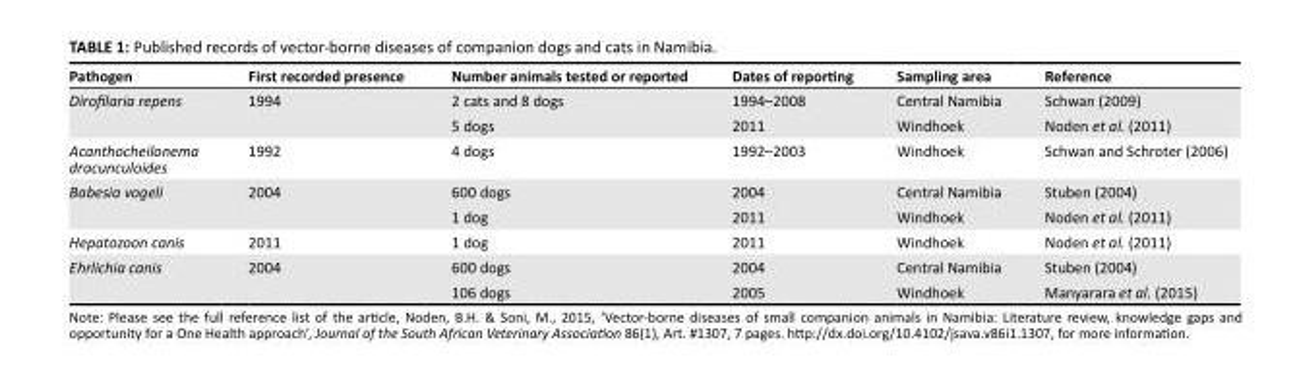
<table><thead><tr><td>Pathogen</td><td>First recorded presence</td><td>Number animals tested or reported</td><td>Dates of reporting</td><td>Sampling area</td><td>Reference</td></tr></thead><tbody><tr><td rowspan="2">Dirofilaria repens</td><td>1994</td><td>2 cats and 8 dogs</td><td>1994–2008</td><td>Central Namibia</td><td>Schwan (2009)</td></tr><tr><td></td><td>5 dogs</td><td>2011</td><td>Windhoek</td><td>Noden et al. (2011)</td></tr><tr><td>Acanthocheilonema dracunculoides</td><td>1992</td><td>4 dogs</td><td>1992–2003</td><td>Windhoek</td><td>Schwan and Schroter (2006)</td></tr><tr><td rowspan="2">Babesia vogeli</td><td>2004</td><td>600 dogs</td><td>2004</td><td>Central Namibia</td><td>Stuben (2004)</td></tr><tr><td></td><td>1 dog</td><td>2011</td><td>Windhoek</td><td>Noden et al. (2011)</td></tr><tr><td>Hepatozoon canis</td><td>2011</td><td>1 dog</td><td>2011</td><td>Windhoek</td><td>Noden et al. (2011)</td></tr><tr><td rowspan="2">Ehrlichia canis</td><td>2004</td><td>600 dogs</td><td>2004</td><td>Central Namibia</td><td>Stuben (2004)</td></tr><tr><td></td><td>106 dogs</td><td>2005</td><td>Windhoek</td><td>Manyarara et al. (2015)</td></tr></tbody></table>